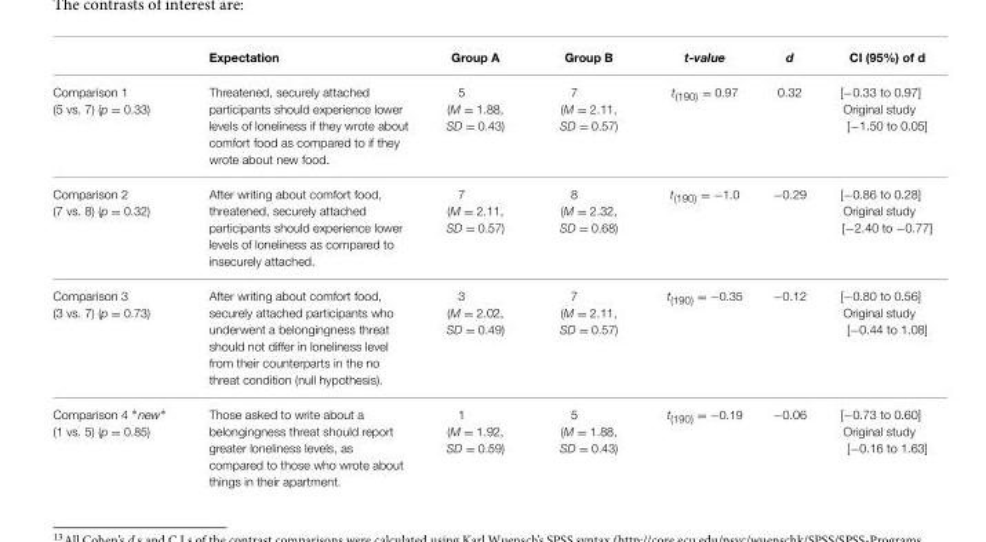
<table><thead><tr><td></td><td>Expectation</td><td>Group A</td><td>Group B</td><td>t-value</td><td>d</td><td>CI (95%) of d</td></tr></thead><tbody><tr><td>Comparison 1 (5 vs. 7) (p = 0.33)</td><td>Threatened, securely attached participants should experience lower levels of loneliness if they wrote about comfort food as compared to if they wrote about new food.</td><td>5 (M = 1.88, SD = 0.43)</td><td>7 (M = 2.11, SD = 0.57)</td><td>t<sub>(190)</sub> = 0.97</td><td>0.32</td><td>[−0.33 to 0.97] Original study [−1.50 to 0.05]</td></tr><tr><td>Comparison 2 (7 vs. 8) (p = 0.32)</td><td>After writing about comfort food, threatened, securely attached participants should experience lower levels of loneliness as compared to insecurely attached.</td><td>7 (M = 2.11, SD = 0.57)</td><td>8 (M = 2.32, SD = 0.68)</td><td>t<sub>(190)</sub> = −1.0</td><td>−0.29</td><td>[−0.86 to 0.28] Original study [−2.40 to −0.77]</td></tr><tr><td>Comparison 3 (3 vs. 7) (p = 0.73)</td><td>After writing about comfort food, securely attached participants who underwent a belongingness threat should not differ in loneliness level from their counterparts in the no threat condition (null hypothesis).</td><td>3 (M = 2.02, SD = 0.49)</td><td>7 (M = 2.11, SD = 0.57)</td><td>t<sub>(190)</sub> = −0.35</td><td>−0.12</td><td>[−0.80 to 0.56] Original study [−0.44 to 1.08]</td></tr><tr><td>Comparison 4 ∗new∗ (1 vs. 5) (p = 0.85)</td><td>Those asked to write about a belongingness threat should report greater loneliness levels, as compared to those who wrote about things in their apartment.</td><td>1 (M = 1.92, SD = 0.59)</td><td>5 (M = 1.88, SD = 0.43)</td><td>t<sub>(190)</sub> = −0.19</td><td>−0.06</td><td>[−0.73 to 0.60] Original study [−0.16 to 1.63]</td></tr></tbody></table>